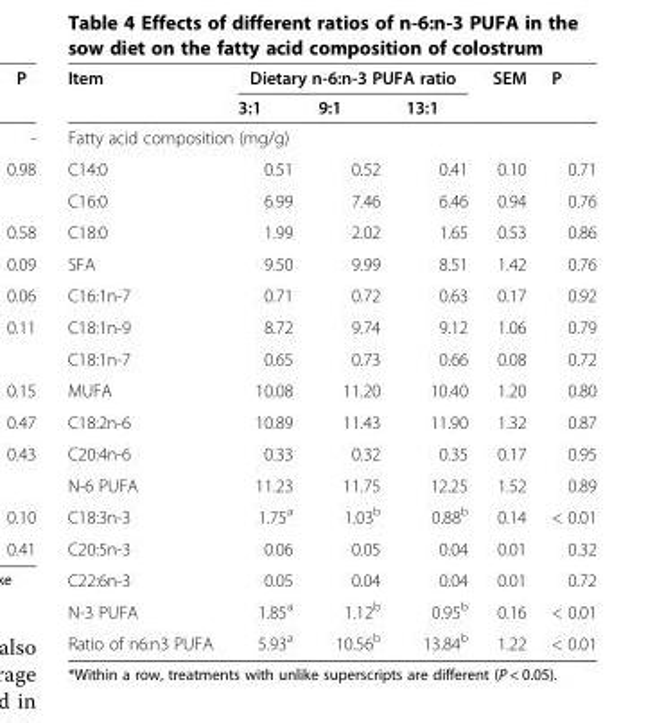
<table><thead><tr><td rowspan="2">Item</td><td colspan="3">Dietary n-6:n-3 PUFA ratio</td><td rowspan="2">SEM</td><td rowspan="2">P</td></tr><tr><td>3:1</td><td>9:1</td><td>13:1</td></tr></thead><tbody><tr><td colspan="6">Fatty acid composition (mg/g)</td></tr><tr><td>C14:0</td><td>0.51</td><td>0.52</td><td>0.41</td><td>0.10</td><td>0.71</td></tr><tr><td>C16:0</td><td>6.99</td><td>7.46</td><td>6.46</td><td>0.94</td><td>0.76</td></tr><tr><td>C18:0</td><td>1.99</td><td>2.02</td><td>1.65</td><td>0.53</td><td>0.86</td></tr><tr><td>SFA</td><td>9.50</td><td>9.99</td><td>8.51</td><td>1.42</td><td>0.76</td></tr><tr><td>C16:1n-7</td><td>0.71</td><td>0.72</td><td>0.63</td><td>0.17</td><td>0.92</td></tr><tr><td>C18:1n-9</td><td>8.72</td><td>9.74</td><td>9.12</td><td>1.06</td><td>0.79</td></tr><tr><td>C18:1n-7</td><td>0.65</td><td>0.73</td><td>0.66</td><td>0.08</td><td>0.72</td></tr><tr><td>MUFA</td><td>10.08</td><td>11.20</td><td>10.40</td><td>1.20</td><td>0.80</td></tr><tr><td>C18:2n-6</td><td>10.89</td><td>11.43</td><td>11.90</td><td>1.32</td><td>0.87</td></tr><tr><td>C20:4n-6</td><td>0.33</td><td>0.32</td><td>0.35</td><td>0.17</td><td>0.95</td></tr><tr><td>N-6 PUFA</td><td>11.23</td><td>11.75</td><td>12.25</td><td>1.52</td><td>0.89</td></tr><tr><td>C18:3n-3</td><td>1.75<sup>a</sup></td><td>1.03<sup>b</sup></td><td>0.88<sup>b</sup></td><td>0.14</td><td>&lt; 0.01</td></tr><tr><td>C20:5n-3</td><td>0.06</td><td>0.05</td><td>0.04</td><td>0.01</td><td>0.32</td></tr><tr><td>C22:6n-3</td><td>0.05</td><td>0.04</td><td>0.04</td><td>0.01</td><td>0.72</td></tr><tr><td>N-3 PUFA</td><td>1.85<sup>a</sup></td><td>1.12<sup>b</sup></td><td>0.95<sup>b</sup></td><td>0.16</td><td>&lt; 0.01</td></tr><tr><td>Ratio of n6:n3 PUFA</td><td>5.93<sup>a</sup></td><td>10.56<sup>b</sup></td><td>13.84<sup>b</sup></td><td>1.22</td><td>&lt; 0.01</td></tr></tbody></table>